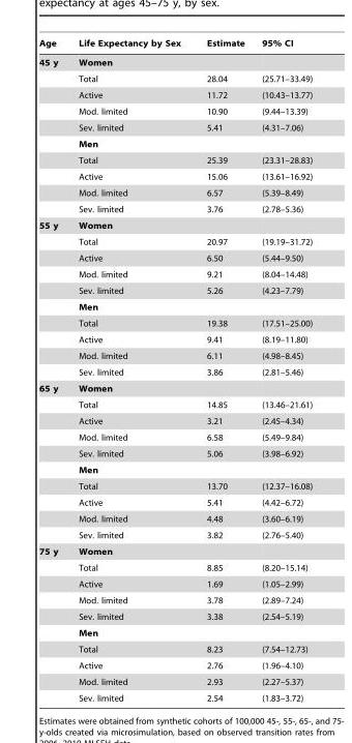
<table><thead><tr><td>Age</td><td>Life Expectancy by Sex</td><td>Estimate</td><td>95% CI</td></tr></thead><tbody><tr><td rowspan="10">45 y</td><td>Women</td><td></td><td></td></tr><tr><td>Total</td><td>28.04</td><td>(25.71–33.49)</td></tr><tr><td>Active</td><td>11.72</td><td>(10.43–13.77)</td></tr><tr><td>Mod. limited</td><td>10.90</td><td>(9.44–13.39)</td></tr><tr><td>Sev. limited</td><td>5.41</td><td>(4.31–7.06)</td></tr><tr><td>Men</td><td></td><td></td></tr><tr><td>Total</td><td>25.39</td><td>(23.31–28.83)</td></tr><tr><td>Active</td><td>15.06</td><td>(13.61–16.92)</td></tr><tr><td>Mod. limited</td><td>6.57</td><td>(5.39–8.49)</td></tr><tr><td>Sev. limited</td><td>3.76</td><td>(2.78–5.36)</td></tr><tr><td rowspan="10">55 y</td><td>Women</td><td></td><td></td></tr><tr><td>Total</td><td>20.97</td><td>(19.19–31.72)</td></tr><tr><td>Active</td><td>6.50</td><td>(5.44–9.50)</td></tr><tr><td>Mod. limited</td><td>9.21</td><td>(8.04–14.48)</td></tr><tr><td>Sev. limited</td><td>5.26</td><td>(4.23–7.79)</td></tr><tr><td>Men</td><td></td><td></td></tr><tr><td>Total</td><td>19.38</td><td>(17.51–25.00)</td></tr><tr><td>Active</td><td>9.41</td><td>(8.19–11.80)</td></tr><tr><td>Mod. limited</td><td>6.11</td><td>(4.98–8.45)</td></tr><tr><td>Sev. limited</td><td>3.86</td><td>(2.81–5.46)</td></tr><tr><td rowspan="10">65 y</td><td>Women</td><td></td><td></td></tr><tr><td>Total</td><td>14.85</td><td>(13.46–21.61)</td></tr><tr><td>Active</td><td>3.21</td><td>(2.45–4.34)</td></tr><tr><td>Mod. limited</td><td>6.58</td><td>(5.49–9.84)</td></tr><tr><td>Sev. limited</td><td>5.06</td><td>(3.98–6.92)</td></tr><tr><td>Men</td><td></td><td></td></tr><tr><td>Total</td><td>13.70</td><td>(12.37–16.08)</td></tr><tr><td>Active</td><td>5.41</td><td>(4.42–6.72)</td></tr><tr><td>Mod. limited</td><td>4.48</td><td>(3.60–6.19)</td></tr><tr><td>Sev. limited</td><td>3.82</td><td>(2.76–5.40)</td></tr><tr><td rowspan="10">75 y</td><td>Women</td><td></td><td></td></tr><tr><td>Total</td><td>8.85</td><td>(8.20–15.14)</td></tr><tr><td>Active</td><td>1.69</td><td>(1.05–2.99)</td></tr><tr><td>Mod. limited</td><td>3.78</td><td>(2.89–7.24)</td></tr><tr><td>Sev. limited</td><td>3.38</td><td>(2.54–5.19)</td></tr><tr><td>Men</td><td></td><td></td></tr><tr><td>Total</td><td>8.23</td><td>(7.54–12.73)</td></tr><tr><td>Active</td><td>2.76</td><td>(1.96–4.10)</td></tr><tr><td>Mod. limited</td><td>2.93</td><td>(2.27–5.37)</td></tr><tr><td>Sev. limited</td><td>2.54</td><td>(1.83–3.72)</td></tr></tbody></table>